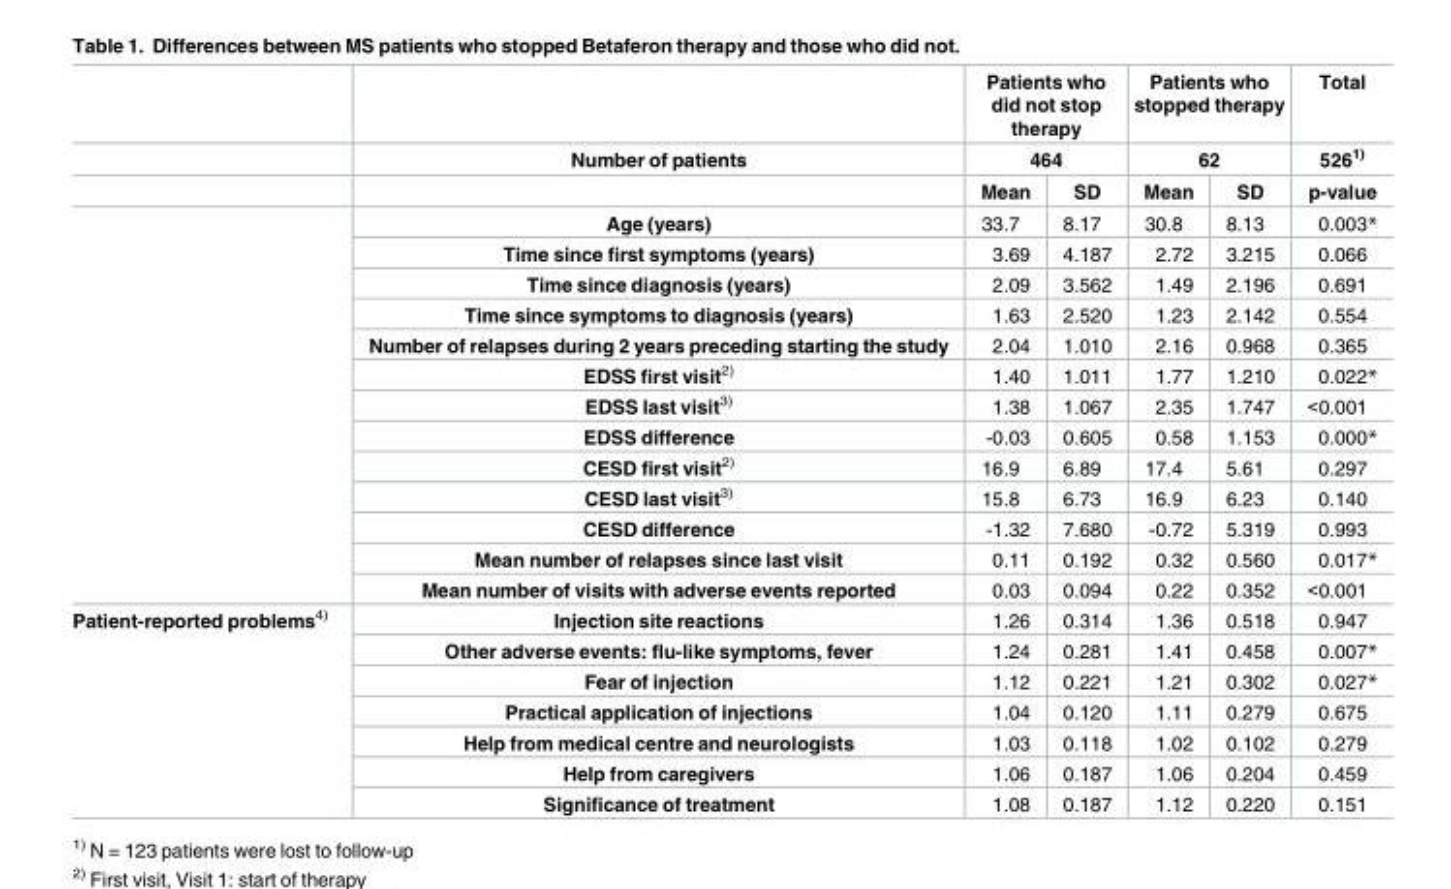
<table><thead><tr><td rowspan="3"></td><td rowspan="3">Number of patients</td><td rowspan="2" colspan="2">Patients who did not stop therapy 464</td><td rowspan="2" colspan="2">Patients who stopped therapy 62</td><td rowspan="3">Total 526<sup>1)</sup> p-value</td></tr><tr></tr><tr><td>Mean</td><td>SD</td><td>Mean</td><td>SD</td></tr></thead><tbody><tr><td rowspan="13"></td><td>Age (years)</td><td>33.7</td><td>8.17</td><td>30.8</td><td>8.13</td><td>0.003*</td></tr><tr><td>Time since first symptoms (years)</td><td>3.69</td><td>4.187</td><td>2.72</td><td>3.215</td><td>0.066</td></tr><tr><td>Time since diagnosis (years)</td><td>2.09</td><td>3.562</td><td>1.49</td><td>2.196</td><td>0.691</td></tr><tr><td>Time since symptoms to diagnosis (years)</td><td>1.63</td><td>2.520</td><td>1.23</td><td>2.142</td><td>0.554</td></tr><tr><td>Number of relapses during 2 years preceding starting the study</td><td>2.04</td><td>1.010</td><td>2.16</td><td>0.968</td><td>0.365</td></tr><tr><td>EDSS first visit<sup>2)</sup></td><td>1.40</td><td>1.011</td><td>1.77</td><td>1.210</td><td>0.022*</td></tr><tr><td>EDSS last visit<sup>3)</sup></td><td>1.38</td><td>1.067</td><td>2.35</td><td>1.747</td><td>&lt;0.001</td></tr><tr><td>EDSS difference</td><td>-0.03</td><td>0.605</td><td>0.58</td><td>1.153</td><td>0.000*</td></tr><tr><td>CESD first visit<sup>2)</sup></td><td>16.9</td><td>6.89</td><td>17.4</td><td>5.61</td><td>0.297</td></tr><tr><td>CESD last visit<sup>3)</sup></td><td>15.8</td><td>6.73</td><td>16.9</td><td>6.23</td><td>0.140</td></tr><tr><td>CESD difference</td><td>-1.32</td><td>7.680</td><td>-0.72</td><td>5.319</td><td>0.993</td></tr><tr><td>Mean number of relapses since last visit</td><td>0.11</td><td>0.192</td><td>0.32</td><td>0.560</td><td>0.017*</td></tr><tr><td>Mean number of visits with adverse events reported</td><td>0.03</td><td>0.094</td><td>0.22</td><td>0.352</td><td>&lt;0.001</td></tr><tr><td rowspan="7">Patient-reported problems<sup>4)</sup></td><td>Injection site reactions</td><td>1.26</td><td>0.314</td><td>1.36</td><td>0.518</td><td>0.947</td></tr><tr><td>Other adverse events: flu-like symptoms, fever</td><td>1.24</td><td>0.281</td><td>1.41</td><td>0.458</td><td>0.007*</td></tr><tr><td>Fear of injection</td><td>1.12</td><td>0.221</td><td>1.21</td><td>0.302</td><td>0.027*</td></tr><tr><td>Practical application of injections</td><td>1.04</td><td>0.120</td><td>1.11</td><td>0.279</td><td>0.675</td></tr><tr><td>Help from medical centre and neurologists</td><td>1.03</td><td>0.118</td><td>1.02</td><td>0.102</td><td>0.279</td></tr><tr><td>Help from caregivers</td><td>1.06</td><td>0.187</td><td>1.06</td><td>0.204</td><td>0.459</td></tr><tr><td>Significance of treatment</td><td>1.08</td><td>0.187</td><td>1.12</td><td>0.220</td><td>0.151</td></tr></tbody></table>